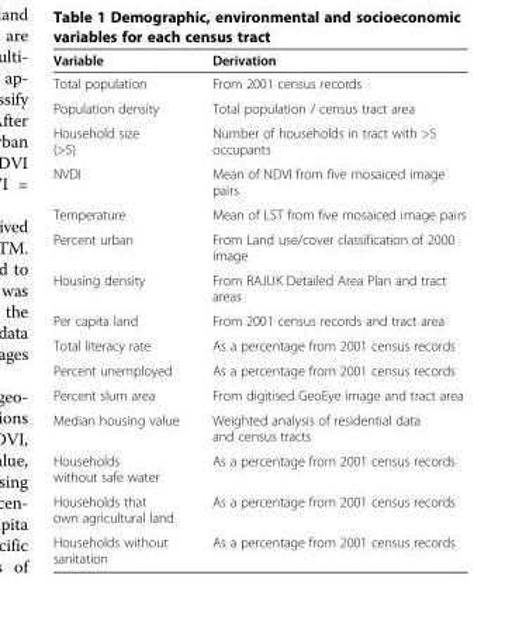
<table><thead><tr><td>Variable</td><td>Derivation</td></tr></thead><tbody><tr><td>Total population</td><td>From 2001 census records</td></tr><tr><td>Population density</td><td>Total population / census tract area</td></tr><tr><td>Household size (&gt;5)</td><td>Number of households in tract with &gt;5 occupants</td></tr><tr><td>NVDI</td><td>Mean of NDVI from five mosaiced image pairs</td></tr><tr><td>Temperature</td><td>Mean of LST from five mosaiced image pairs</td></tr><tr><td>Percent urban</td><td>From Land use/cover classification of 2000 image</td></tr><tr><td>Housing density</td><td>From RAJUK Detailed Area Plan and tract areas</td></tr><tr><td>Per capita land</td><td>From 2001 census records and tract area</td></tr><tr><td>Total literacy rate</td><td>As a percentage from 2001 census records</td></tr><tr><td>Percent unemployed</td><td>As a percentage from 2001 census records</td></tr><tr><td>Percent slum area</td><td>From digitised GeoEye image and tract area</td></tr><tr><td>Median housing value</td><td>Weighted analysis of residential data and census tracts</td></tr><tr><td>Households without safe water</td><td>As a percentage from 2001 census records</td></tr><tr><td>Households that own agricultural land</td><td>As a percentage from 2001 census records</td></tr><tr><td>Households without sanitation</td><td>As a percentage from 2001 census records</td></tr></tbody></table>